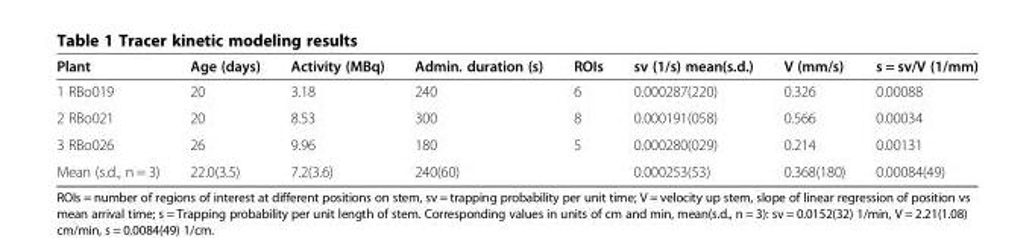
<table><thead><tr><td>Plant</td><td>Age (days)</td><td>Activity (MBq)</td><td>Admin. duration (s)</td><td>ROIs</td><td>sv (1/s) mean(s.d.)</td><td>V (mm/s)</td><td>s = sv/V (1/mm)</td></tr></thead><tbody><tr><td>1 RBo019</td><td>20</td><td>3.18</td><td>240</td><td>6</td><td>0.000287(220)</td><td>0.326</td><td>0.00088</td></tr><tr><td>2 RBo021</td><td>20</td><td>8.53</td><td>300</td><td>8</td><td>0.000191(058)</td><td>0.566</td><td>0.00034</td></tr><tr><td>3 RBo026</td><td>26</td><td>9.96</td><td>180</td><td>5</td><td>0.000280(029)</td><td>0.214</td><td>0.00131</td></tr><tr><td>Mean (s.d., n = 3)</td><td>22.0(3.5)</td><td>7.2(3.6)</td><td>240(60)</td><td></td><td>0.000253(53)</td><td>0.368(180)</td><td>0.00084(49)</td></tr></tbody></table>